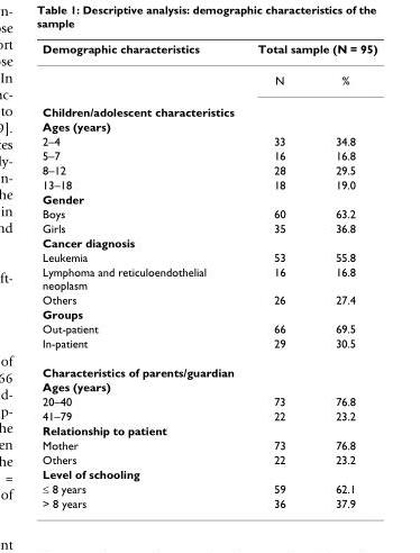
<table><thead><tr><td rowspan="2">Demographic characteristics</td><td colspan="2">Total sample (N = 95)</td></tr><tr><td>N</td><td>%</td></tr></thead><tbody><tr><td colspan="3">Children/adolescent characteristics</td></tr><tr><td colspan="3">Ages (years)</td></tr><tr><td>2–4</td><td>33</td><td>34.8</td></tr><tr><td>5–7</td><td>16</td><td>16.8</td></tr><tr><td>8–12</td><td>28</td><td>29.5</td></tr><tr><td>13–18</td><td>18</td><td>19.0</td></tr><tr><td colspan="3">Gender</td></tr><tr><td>Boys</td><td>60</td><td>63.2</td></tr><tr><td>Girls</td><td>35</td><td>36.8</td></tr><tr><td colspan="3">Cancer diagnosis</td></tr><tr><td>Leukemia</td><td>53</td><td>55.8</td></tr><tr><td>Lymphoma and reticuloendothelial neoplasm</td><td>16</td><td>16.8</td></tr><tr><td>Others</td><td>26</td><td>27.4</td></tr><tr><td colspan="3">Groups</td></tr><tr><td>Out-patient</td><td>66</td><td>69.5</td></tr><tr><td>In-patient</td><td>29</td><td>30.5</td></tr><tr><td colspan="3">Characteristics of parents/guardian</td></tr><tr><td colspan="3">Ages (years)</td></tr><tr><td>20–40</td><td>73</td><td>76.8</td></tr><tr><td>41–79</td><td>22</td><td>23.2</td></tr><tr><td colspan="3">Relationship to patient</td></tr><tr><td>Mother</td><td>73</td><td>76.8</td></tr><tr><td>Others</td><td>22</td><td>23.2</td></tr><tr><td colspan="3">Level of schooling</td></tr><tr><td>≤ 8 years</td><td>59</td><td>62.1</td></tr><tr><td>&gt; 8 years</td><td>36</td><td>37.9</td></tr></tbody></table>